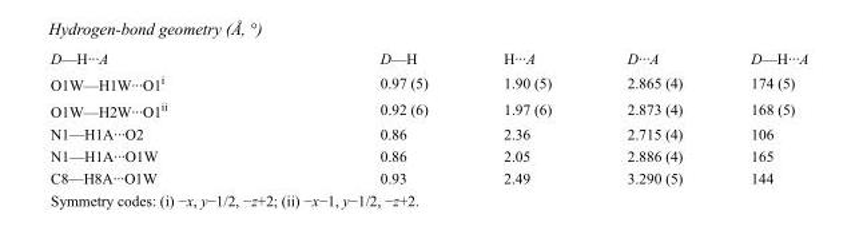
<table><tbody><tr><td>D—H···A</td><td>D—H</td><td>H···A</td><td>D···A</td><td>D—H···A</td></tr><tr><td>O1W—H1W···O1<sup>i</sup></td><td>0.97 (5)</td><td>1.90 (5)</td><td>2.865 (4)</td><td>174 (5)</td></tr><tr><td>O1W—H2W···O1<sup>ii</sup></td><td>0.92 (6)</td><td>1.97 (6)</td><td>2.873 (4)</td><td>168 (5)</td></tr><tr><td>N1—H1A···O2</td><td>0.86</td><td>2.36</td><td>2.715 (4)</td><td>106</td></tr><tr><td>N1—H1A···O1W</td><td>0.86</td><td>2.05</td><td>2.886 (4)</td><td>165</td></tr><tr><td>C8—H8A···O1W</td><td>0.93</td><td>2.49</td><td>3.290 (5)</td><td>144</td></tr></tbody></table>